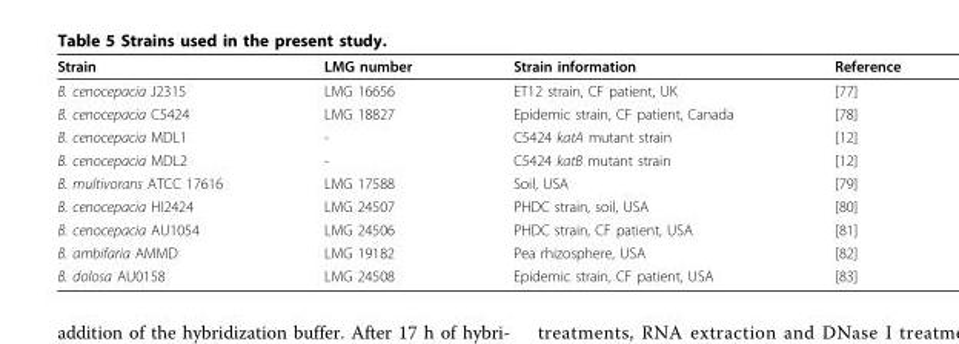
<table><thead><tr><td>Strain</td><td>LMG number</td><td>Strain information</td><td>Reference</td></tr></thead><tbody><tr><td>B. cenocepacia J2315</td><td>LMG 16656</td><td>ET12 strain, CF patient, UK</td><td>[77]</td></tr><tr><td>B. cenocepacia C5424</td><td>LMG 18827</td><td>Epidemic strain, CF patient, Canada</td><td>[78]</td></tr><tr><td>B. cenocepacia MDL1</td><td>-</td><td>C5424 katA mutant strain</td><td>[12]</td></tr><tr><td>B. cenocepacia MDL2</td><td>-</td><td>C5424 katB mutant strain</td><td>[12]</td></tr><tr><td>B. multivorans ATCC 17616</td><td>LMG 17588</td><td>Soil, USA</td><td>[79]</td></tr><tr><td>B. cenocepacia HI2424</td><td>LMG 24507</td><td>PHDC strain, soil, USA</td><td>[80]</td></tr><tr><td>B. cenocepacia AU1054</td><td>LMG 24506</td><td>PHDC strain, CF patient, USA</td><td>[81]</td></tr><tr><td>B. ambifaria AMMD</td><td>LMG 19182</td><td>Pea rhizosphere, USA</td><td>[82]</td></tr><tr><td>B. dolosa AU0158</td><td>LMG 24508</td><td>Epidemic strain, CF patient, USA</td><td>[83]</td></tr></tbody></table>